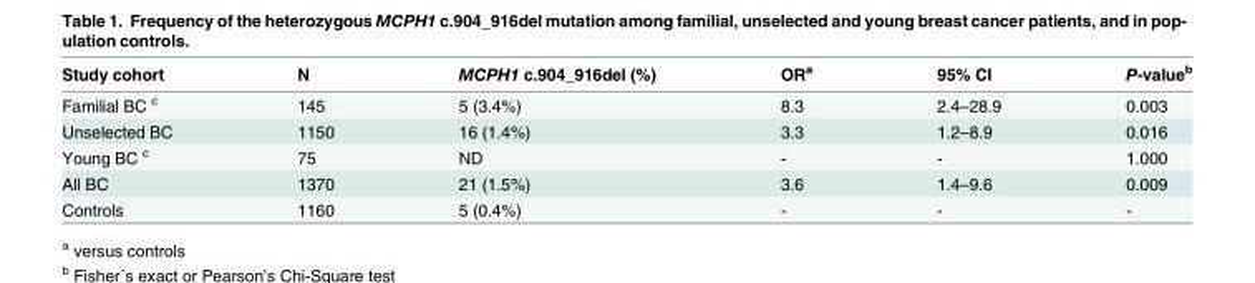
<table><thead><tr><td>Study cohort</td><td>N</td><td>MCPH1 c.904_916del (%)</td><td>OR<sup>a</sup></td><td>95% CI</td><td>P-value<sup>b</sup></td></tr></thead><tbody><tr><td>Familial BC <sup>c</sup></td><td>145</td><td>5 (3.4%)</td><td>8.3</td><td>2.4–28.9</td><td>0.003</td></tr><tr><td>Unselected BC</td><td>1150</td><td>16 (1.4%)</td><td>3.3</td><td>1.2–8.9</td><td>0.016</td></tr><tr><td>Young BC <sup>c</sup></td><td>75</td><td>ND</td><td>-</td><td>-</td><td>1.000</td></tr><tr><td>All BC</td><td>1370</td><td>21 (1.5%)</td><td>3.6</td><td>1.4–9.6</td><td>0.009</td></tr><tr><td>Controls</td><td>1160</td><td>5 (0.4%)</td><td>-</td><td>-</td><td>-</td></tr></tbody></table>